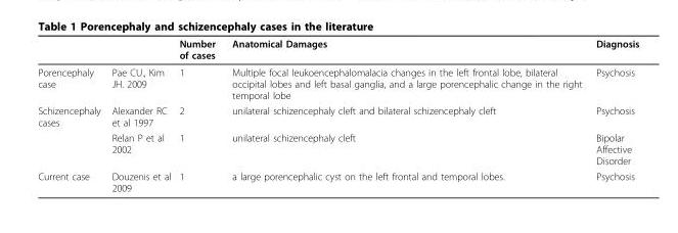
<table><thead><tr><td></td><td></td><td>Number of cases</td><td>Anatomical Damages</td><td>Diagnosis</td></tr></thead><tbody><tr><td>Porencephaly case</td><td>Pae CU., Kim JH. 2009</td><td>1</td><td>Multiple focal leukoencephalomalacia changes in the left frontal lobe, bilateral occipital lobes and left basal ganglia, and a large porencephalic change in the right temporal lobe</td><td>Psychosis</td></tr><tr><td rowspan="2">Schizencephaly cases</td><td>Alexander RC et al 1997</td><td>2</td><td>unilateral schizencephaly cleft and bilateral schizencephaly cleft</td><td>Psychosis</td></tr><tr><td>Relan P et al 2002</td><td>1</td><td>unilateral schizencephaly cleft</td><td>Bipolar Affective Disorder</td></tr><tr><td>Current case</td><td>Douzenis et al 2009</td><td>1</td><td>a large porencephalic cyst on the left frontal and temporal lobes.</td><td>Psychosis</td></tr></tbody></table>